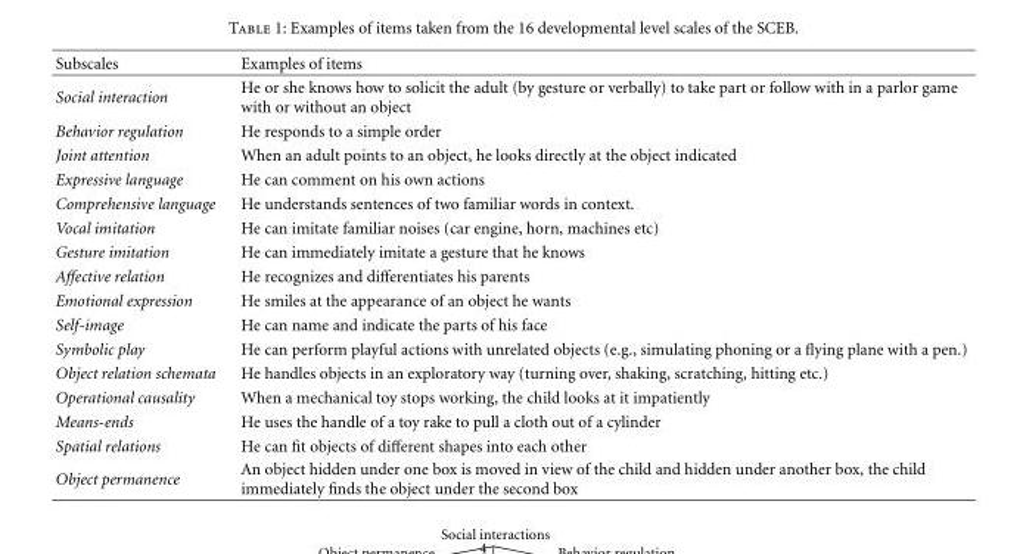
<table><thead><tr><td>Subscales</td><td>Examples of items</td></tr></thead><tbody><tr><td>Social interaction</td><td>He or she knows how to solicit the adult (by gesture or verbally) to take part or follow with in a parlor game with or without an object</td></tr><tr><td>Behavior regulation</td><td>He responds to a simple order</td></tr><tr><td>Joint attention</td><td>When an adult points to an object, he looks directly at the object indicated</td></tr><tr><td>Expressive language</td><td>He can comment on his own actions</td></tr><tr><td>Comprehensive language</td><td>He understands sentences of two familiar words in context.</td></tr><tr><td>Vocal imitation</td><td>He can imitate familiar noises (car engine, horn, machines etc)</td></tr><tr><td>Gesture imitation</td><td>He can immediately imitate a gesture that he knows</td></tr><tr><td>Affective relation</td><td>He recognizes and differentiates his parents</td></tr><tr><td>Emotional expression</td><td>He smiles at the appearance of an object he wants</td></tr><tr><td>Self-image</td><td>He can name and indicate the parts of his face</td></tr><tr><td>Symbolic play</td><td>He can perform playful actions with unrelated objects (e.g., simulating phoning or a flying plane with a pen.)</td></tr><tr><td>Object relation schemata</td><td>He handles objects in an exploratory way (turning over, shaking, scratching, hitting etc.)</td></tr><tr><td>Operational causality</td><td>When a mechanical toy stops working, the child looks at it impatiently</td></tr><tr><td>Means-ends</td><td>He uses the handle of a toy rake to pull a cloth out of a cylinder</td></tr><tr><td>Spatial relations</td><td>He can fit objects of different shapes into each other</td></tr><tr><td>Object permanence</td><td>An object hidden under one box is moved in view of the child and hidden under another box, the child immediately finds the object under the second box</td></tr></tbody></table>